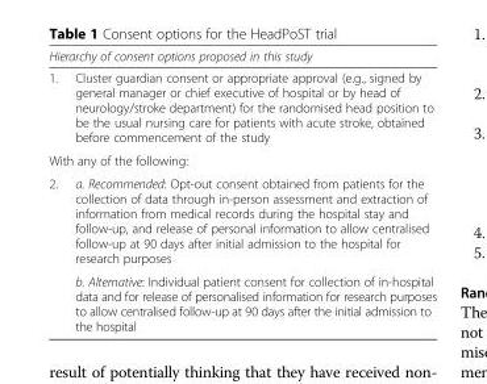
<table><thead><tr><td colspan="2">Hierarchy of consent options proposed in this study</td></tr><tr><td>1.</td><td>Cluster guardian consent or appropriate approval (e.g., signed by general manager or chief executive of hospital or by head of neurology/stroke department) for the randomised head position to be the usual nursing care for patients with acute stroke, obtained before commencement of the study</td></tr></thead><tbody><tr><td colspan="2">With any of the following:</td></tr><tr><td rowspan="2">2.</td><td>a. Recommended: Opt-out consent obtained from patients for the collection of data through in-person assessment and extraction of information from medical records during the hospital stay and follow-up, and release of personal information to allow centralised follow-up at 90 days after initial admission to the hospital for research purposes</td></tr><tr><td>b. Alternative: Individual patient consent for collection of in-hospital data and for release of personalised information for research purposes to allow centralised follow-up at 90 days after the initial admission to the hospital</td></tr></tbody></table>